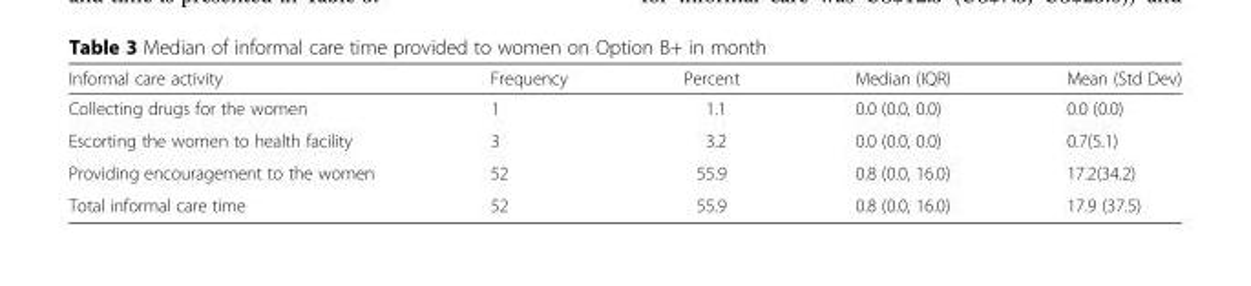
<table><thead><tr><td>Informal care activity</td><td>Frequency</td><td>Percent</td><td>Median (IQR)</td><td>Mean (Std Dev)</td></tr></thead><tbody><tr><td>Collecting drugs for the women</td><td>1</td><td>1.1</td><td>0.0 (0.0, 0.0)</td><td>0.0 (0.0)</td></tr><tr><td>Escorting the women to health facility</td><td>3</td><td>3.2</td><td>0.0 (0.0, 0.0)</td><td>0.7(5.1)</td></tr><tr><td>Providing encouragement to the women</td><td>52</td><td>55.9</td><td>0.8 (0.0, 16.0)</td><td>17.2(34.2)</td></tr><tr><td>Total informal care time</td><td>52</td><td>55.9</td><td>0.8 (0.0, 16.0)</td><td>17.9 (37.5)</td></tr></tbody></table>